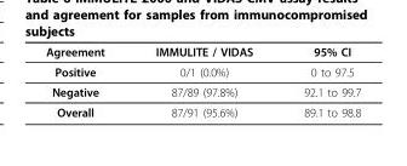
<table><thead><tr><td>Agreement</td><td>IMMULITE / VIDAS</td><td>95% CI</td></tr></thead><tbody><tr><td>Positive</td><td>0/1 (0.0%)</td><td>0 to 97.5</td></tr><tr><td>Negative</td><td>87/89 (97.8%)</td><td>92.1 to 99.7</td></tr><tr><td>Overall</td><td>87/91 (95.6%)</td><td>89.1 to 98.8</td></tr></tbody></table>